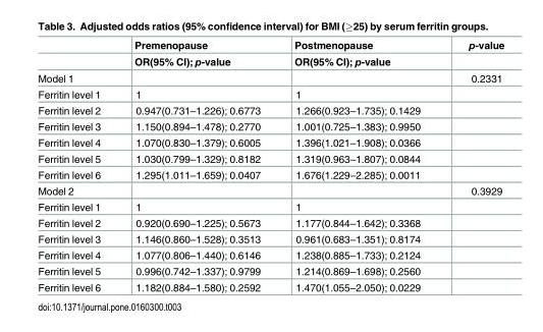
<table><thead><tr><td rowspan="2"></td><td rowspan="2">Premenopause OR(95% CI); p-value</td><td rowspan="2">Postmenopause OR(95% CI); p-value</td><td rowspan="2">p-value</td></tr><tr></tr></thead><tbody><tr><td>Model 1</td><td></td><td></td><td>0.2331</td></tr><tr><td>Ferritin level 1</td><td>1</td><td>1</td><td></td></tr><tr><td>Ferritin level 2</td><td>0.947(0.731–1.226); 0.6773</td><td>1.266(0.923–1.735); 0.1429</td><td></td></tr><tr><td>Ferritin level 3</td><td>1.150(0.894–1.478); 0.2770</td><td>1.001(0.725–1.383); 0.9950</td><td></td></tr><tr><td>Ferritin level 4</td><td>1.070(0.830–1.379); 0.6005</td><td>1.396(1.021–1.908); 0.0366</td><td></td></tr><tr><td>Ferritin level 5</td><td>1.030(0.799–1.329); 0.8182</td><td>1.319(0.963–1.807); 0.0844</td><td></td></tr><tr><td>Ferritin level 6</td><td>1.295(1.011–1.659); 0.0407</td><td>1.676(1.229–2.285); 0.0011</td><td></td></tr><tr><td>Model 2</td><td></td><td></td><td>0.3929</td></tr><tr><td>Ferritin level 1</td><td>1</td><td>1</td><td></td></tr><tr><td>Ferritin level 2</td><td>0.920(0.690–1.225); 0.5673</td><td>1.177(0.844–1.642); 0.3368</td><td></td></tr><tr><td>Ferritin level 3</td><td>1.146(0.860–1.528); 0.3513</td><td>0.961(0.683–1.351); 0.8174</td><td></td></tr><tr><td>Ferritin level 4</td><td>1.077(0.806–1.440); 0.6146</td><td>1.238(0.885–1.733); 0.2124</td><td></td></tr><tr><td>Ferritin level 5</td><td>0.996(0.742–1.337); 0.9799</td><td>1.214(0.869–1.698); 0.2560</td><td></td></tr><tr><td>Ferritin level 6</td><td>1.182(0.884–1.580); 0.2592</td><td>1.470(1.055–2.050); 0.0229</td><td></td></tr></tbody></table>